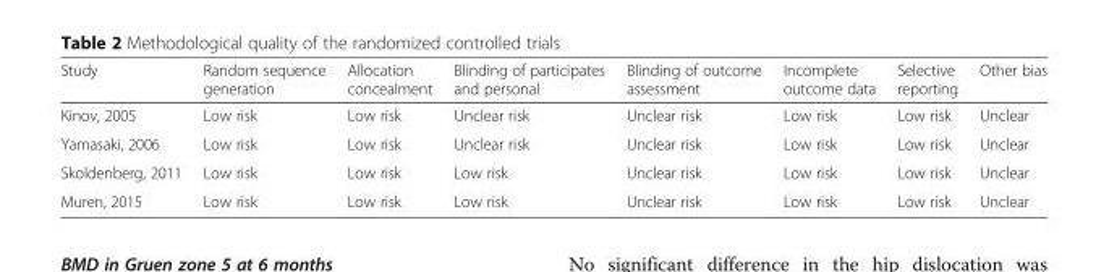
<table><thead><tr><td>Study</td><td>Random sequence generation</td><td>Allocation concealment</td><td>Blinding of participates and personal</td><td>Blinding of outcome assessment</td><td>Incomplete outcome data</td><td>Selective reporting</td><td>Other bias</td></tr></thead><tbody><tr><td>Kinov, 2005</td><td>Low risk</td><td>Low risk</td><td>Unclear risk</td><td>Unclear risk</td><td>Low risk</td><td>Low risk</td><td>Unclear</td></tr><tr><td>Yamasaki, 2006</td><td>Low risk</td><td>Low risk</td><td>Unclear risk</td><td>Unclear risk</td><td>Low risk</td><td>Low risk</td><td>Unclear</td></tr><tr><td>Skoldenberg, 2011</td><td>Low risk</td><td>Low risk</td><td>Low risk</td><td>Unclear risk</td><td>Low risk</td><td>Low risk</td><td>Unclear</td></tr><tr><td>Muren, 2015</td><td>Low risk</td><td>Low risk</td><td>Low risk</td><td>Unclear risk</td><td>Low risk</td><td>Low risk</td><td>Unclear</td></tr></tbody></table>